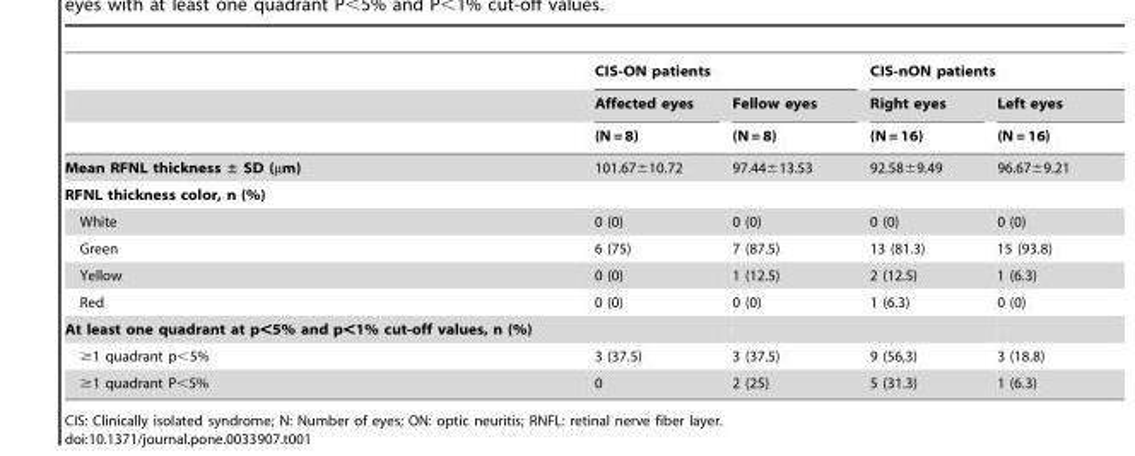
<table><thead><tr><td rowspan="3"></td><td colspan="2">CIS-ON patients</td><td colspan="2">CIS-nON patients</td></tr><tr><td rowspan="2">Affected eyes (N = 8)</td><td rowspan="2">Fellow eyes (N = 8)</td><td rowspan="2">Right eyes (N = 16)</td><td rowspan="2">Left eyes (N = 16)</td></tr><tr></tr></thead><tbody><tr><td>Mean RFNL thickness ± SD (µm)</td><td>101.67±10.72</td><td>97.44±13.53</td><td>92.58±9.49</td><td>96.67±9.21</td></tr><tr><td colspan="5">RFNL thickness color, n (%)</td></tr><tr><td>White</td><td>0 (0)</td><td>0 (0)</td><td>0 (0)</td><td>0 (0)</td></tr><tr><td>Green</td><td>6 (75)</td><td>7 (87.5)</td><td>13 (81.3)</td><td>15 (93.8)</td></tr><tr><td>Yellow</td><td>0 (0)</td><td>1 (12.5)</td><td>2 (12.5)</td><td>1 (6.3)</td></tr><tr><td>Red</td><td>0 (0)</td><td>0 (0)</td><td>1 (6.3)</td><td>0 (0)</td></tr><tr><td colspan="5">At least one quadrant at p&lt;5% and p&lt;1% cut-off values, n (%)</td></tr><tr><td>≥1 quadrant p&lt;5%</td><td>3 (37.5)</td><td>3 (37.5)</td><td>9 (56,3)</td><td>3 (18.8)</td></tr><tr><td>≥1 quadrant P&lt;5%</td><td>0</td><td>2 (25)</td><td>5 (31.3)</td><td>1 (6.3)</td></tr></tbody></table>